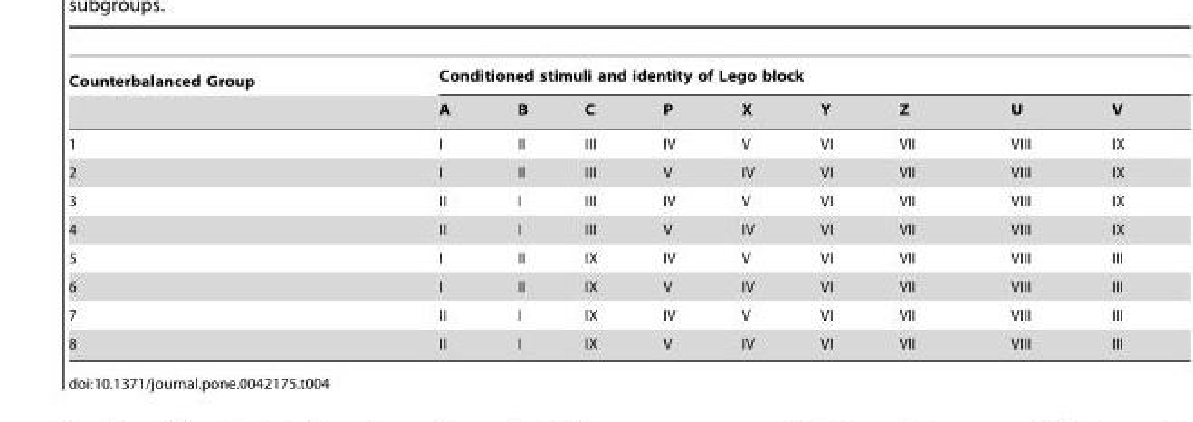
<table><thead><tr><td rowspan="2">Counterbalanced Group</td><td colspan="9">Conditioned stimuli and identity of Lego block</td></tr><tr><td>A</td><td>B</td><td>C</td><td>P</td><td>X</td><td>Y</td><td>Z</td><td>U</td><td>V</td></tr></thead><tbody><tr><td>1</td><td>I</td><td>II</td><td>III</td><td>IV</td><td>V</td><td>VI</td><td>VII</td><td>VIII</td><td>IX</td></tr><tr><td>2</td><td>I</td><td>II</td><td>III</td><td>V</td><td>IV</td><td>VI</td><td>VII</td><td>VIII</td><td>IX</td></tr><tr><td>3</td><td>II</td><td>I</td><td>III</td><td>IV</td><td>V</td><td>VI</td><td>VII</td><td>VIII</td><td>IX</td></tr><tr><td>4</td><td>II</td><td>I</td><td>III</td><td>V</td><td>IV</td><td>VI</td><td>VII</td><td>VIII</td><td>IX</td></tr><tr><td>5</td><td>I</td><td>II</td><td>IX</td><td>IV</td><td>V</td><td>VI</td><td>VII</td><td>VIII</td><td>III</td></tr><tr><td>6</td><td>I</td><td>II</td><td>IX</td><td>V</td><td>IV</td><td>VI</td><td>VII</td><td>VIII</td><td>III</td></tr><tr><td>7</td><td>II</td><td>I</td><td>IX</td><td>IV</td><td>V</td><td>VI</td><td>VII</td><td>VIII</td><td>III</td></tr><tr><td>8</td><td>II</td><td>I</td><td>IX</td><td>V</td><td>IV</td><td>VI</td><td>VII</td><td>VIII</td><td>III</td></tr></tbody></table>